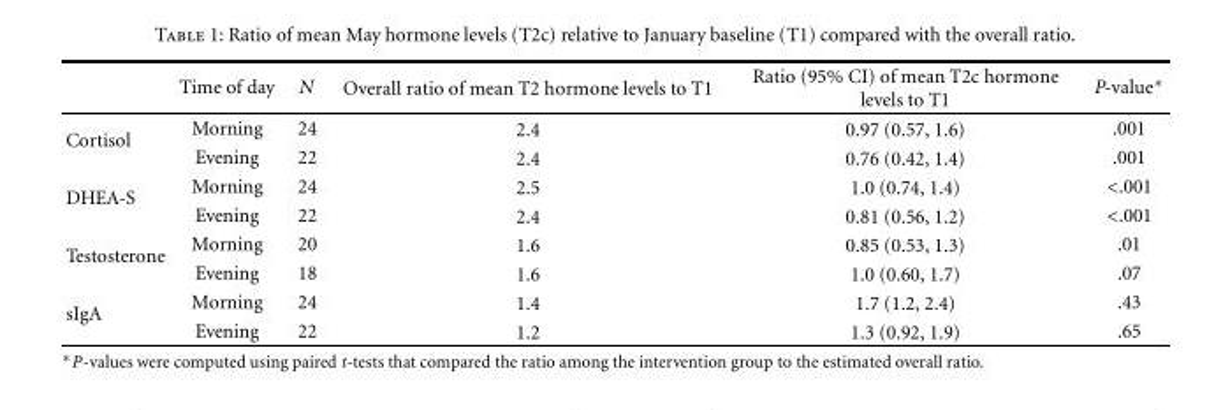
<table><thead><tr><td></td><td>Time of day</td><td>N</td><td>Overall ratio of mean T2 hormone levels to T1</td><td>Ratio (95% CI) of mean T2c hormone levels to T1</td><td>P-value∗</td></tr></thead><tbody><tr><td rowspan="2">Cortisol</td><td>Morning</td><td>24</td><td>2.4</td><td>0.97 (0.57, 1.6)</td><td>.001</td></tr><tr><td>Evening</td><td>22</td><td>2.4</td><td>0.76 (0.42, 1.4)</td><td>.001</td></tr><tr><td rowspan="2">DHEA-S</td><td>Morning</td><td>24</td><td>2.5</td><td>1.0 (0.74, 1.4)</td><td>&lt;.001</td></tr><tr><td>Evening</td><td>22</td><td>2.4</td><td>0.81 (0.56, 1.2)</td><td>&lt;.001</td></tr><tr><td rowspan="2">Testosterone</td><td>Morning</td><td>20</td><td>1.6</td><td>0.85 (0.53, 1.3)</td><td>.01</td></tr><tr><td>Evening</td><td>18</td><td>1.6</td><td>1.0 (0.60, 1.7)</td><td>.07</td></tr><tr><td rowspan="2">sIgA</td><td>Morning</td><td>24</td><td>1.4</td><td>1.7 (1.2, 2.4)</td><td>.43</td></tr><tr><td>Evening</td><td>22</td><td>1.2</td><td>1.3 (0.92, 1.9)</td><td>.65</td></tr></tbody></table>